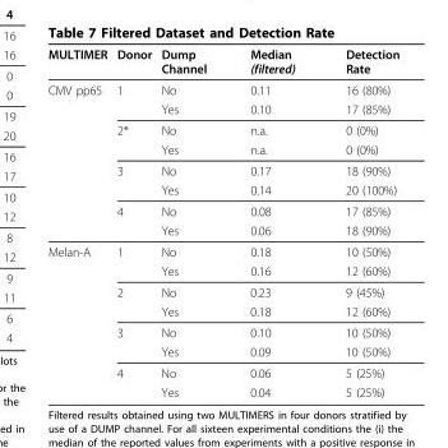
<table><thead><tr><td>MULTIMER</td><td>Donor</td><td>Dump Channel</td><td>Median (filtered)</td><td>Detection Rate</td></tr></thead><tbody><tr><td rowspan="8">CMV pp65</td><td>1</td><td>No</td><td>0.11</td><td>16 (80%)</td></tr><tr><td></td><td>Yes</td><td>0.10</td><td>17 (85%)</td></tr><tr><td>2*</td><td>No</td><td>n.a.</td><td>0 (0%)</td></tr><tr><td></td><td>Yes</td><td>n.a.</td><td>0 (0%)</td></tr><tr><td>3</td><td>No</td><td>0.17</td><td>18 (90%)</td></tr><tr><td></td><td>Yes</td><td>0.14</td><td>20 (100%)</td></tr><tr><td>4</td><td>No</td><td>0.08</td><td>17 (85%)</td></tr><tr><td></td><td>Yes</td><td>0.06</td><td>18 (90%)</td></tr><tr><td rowspan="8">Melan-A</td><td>1</td><td>No</td><td>0.18</td><td>10 (50%)</td></tr><tr><td></td><td>Yes</td><td>0.16</td><td>12 (60%)</td></tr><tr><td>2</td><td>No</td><td>0.23</td><td>9 (45%)</td></tr><tr><td></td><td>Yes</td><td>0.18</td><td>12 (60%)</td></tr><tr><td>3</td><td>No</td><td>0.10</td><td>10 (50%)</td></tr><tr><td></td><td>Yes</td><td>0.09</td><td>10 (50%)</td></tr><tr><td>4</td><td>No</td><td>0.06</td><td>5 (25%)</td></tr><tr><td></td><td>Yes</td><td>0.04</td><td>5 (25%)</td></tr></tbody></table>